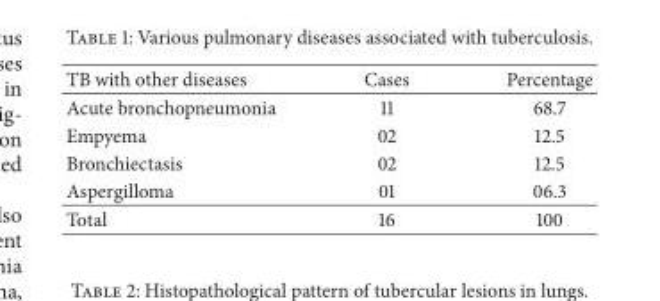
<table><thead><tr><td>TB with other diseases</td><td>Cases</td><td>Percentage</td></tr></thead><tbody><tr><td>Acute bronchopneumonia</td><td>11</td><td>68.7</td></tr><tr><td>Empyema</td><td>02</td><td>12.5</td></tr><tr><td>Bronchiectasis</td><td>02</td><td>12.5</td></tr><tr><td>Aspergilloma</td><td>01</td><td>06.3</td></tr><tr><td>Total</td><td>16</td><td>100</td></tr></tbody></table>